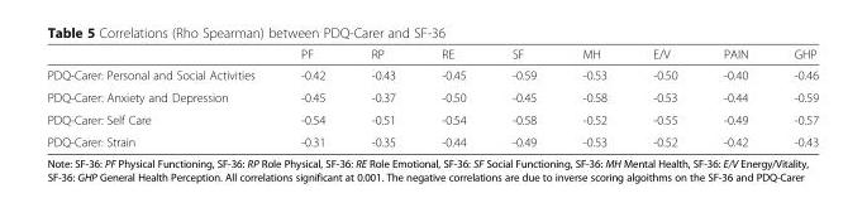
<table><thead><tr><td></td><td>PF</td><td>RP</td><td>RE</td><td>SF</td><td>MH</td><td>E/V</td><td>PAIN</td><td>GHP</td></tr></thead><tbody><tr><td>PDQ-Carer: Personal and Social Activities</td><td>-0.42</td><td>-0.43</td><td>-0.45</td><td>-0.59</td><td>-0.53</td><td>-0.50</td><td>-0.40</td><td>-0.46</td></tr><tr><td>PDQ-Carer: Anxiety and Depression</td><td>-0.45</td><td>-0.37</td><td>-0.50</td><td>-0.45</td><td>-0.58</td><td>-0.53</td><td>-0.44</td><td>-0.59</td></tr><tr><td>PDQ-Carer: Self Care</td><td>-0.54</td><td>-0.51</td><td>-0.54</td><td>-0.58</td><td>-0.52</td><td>-0.55</td><td>-0.49</td><td>-0.57</td></tr><tr><td>PDQ-Carer: Strain</td><td>-0.31</td><td>-0.35</td><td>-0.44</td><td>-0.49</td><td>-0.53</td><td>-0.52</td><td>-0.42</td><td>-0.43</td></tr></tbody></table>